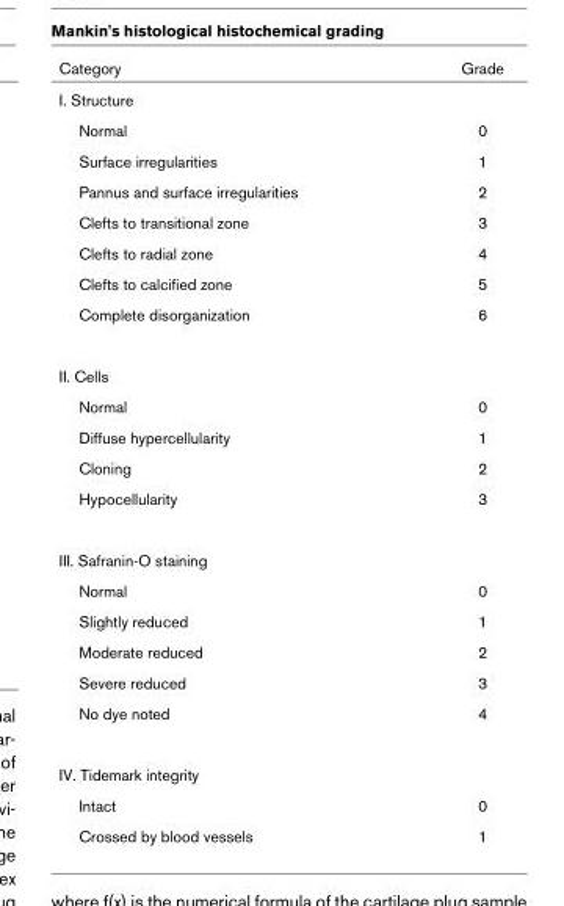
<table><thead><tr><td>Category</td><td>Grade</td></tr></thead><tbody><tr><td colspan="2">I. Structure</td></tr><tr><td>Normal</td><td>0</td></tr><tr><td>Surface irregularities</td><td>1</td></tr><tr><td>Pannus and surface irregularities</td><td>2</td></tr><tr><td>Clefts to transitional zone</td><td>3</td></tr><tr><td>Clefts to radial zone</td><td>4</td></tr><tr><td>Clefts to calcified zone</td><td>5</td></tr><tr><td>Complete disorganization</td><td>6</td></tr><tr><td colspan="2">II. Cells</td></tr><tr><td>Normal</td><td>0</td></tr><tr><td>Diffuse hypercellularity</td><td>1</td></tr><tr><td>Cloning</td><td>2</td></tr><tr><td>Hypocellularity</td><td>3</td></tr><tr><td colspan="2">III. Safranin-O staining</td></tr><tr><td>Normal</td><td>0</td></tr><tr><td>Slightly reduced</td><td>1</td></tr><tr><td>Moderate reduced</td><td>2</td></tr><tr><td>Severe reduced</td><td>3</td></tr><tr><td>No dye noted</td><td>4</td></tr><tr><td colspan="2">IV. Tidemark integrity</td></tr><tr><td>Intact</td><td>0</td></tr><tr><td>Crossed by blood vessels</td><td>1</td></tr></tbody></table>